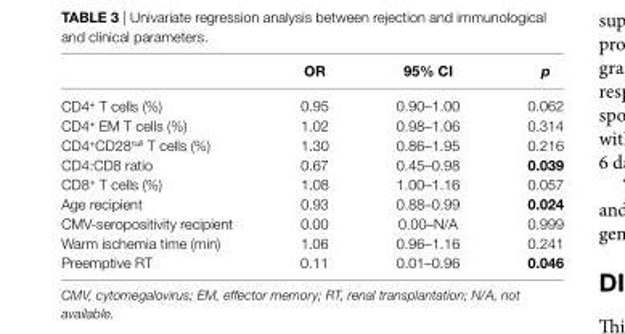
<table><thead><tr><td></td><td>Or</td><td>95% ci</td><td>p</td></tr></thead><tbody><tr><td>CD4<sup>+</sup> T cells (%)</td><td>0.95</td><td>0.90–1.00</td><td>0.062</td></tr><tr><td>CD4<sup>+</sup> EM T cells (%)</td><td>1.02</td><td>0.98–1.06</td><td>0.314</td></tr><tr><td>CD4<sup>+</sup>CD28<sup>null</sup> T cells (%)</td><td>1.30</td><td>0.86–1.95</td><td>0.216</td></tr><tr><td>CD4:CD8 ratio</td><td>0.67</td><td>0.45–0.98</td><td>0.039</td></tr><tr><td>CD8<sup>+</sup> T cells (%)</td><td>1.08</td><td>1.00–1.16</td><td>0.057</td></tr><tr><td>Age recipient</td><td>0.93</td><td>0.88–0.99</td><td>0.024</td></tr><tr><td>CMV-seropositivity recipient</td><td>0.00</td><td>0.00–N/A</td><td>0.999</td></tr><tr><td>Warm ischemia time (min)</td><td>1.06</td><td>0.96–1.16</td><td>0.241</td></tr><tr><td>Preemptive RT</td><td>0.11</td><td>0.01–0.96</td><td>0.046</td></tr></tbody></table>